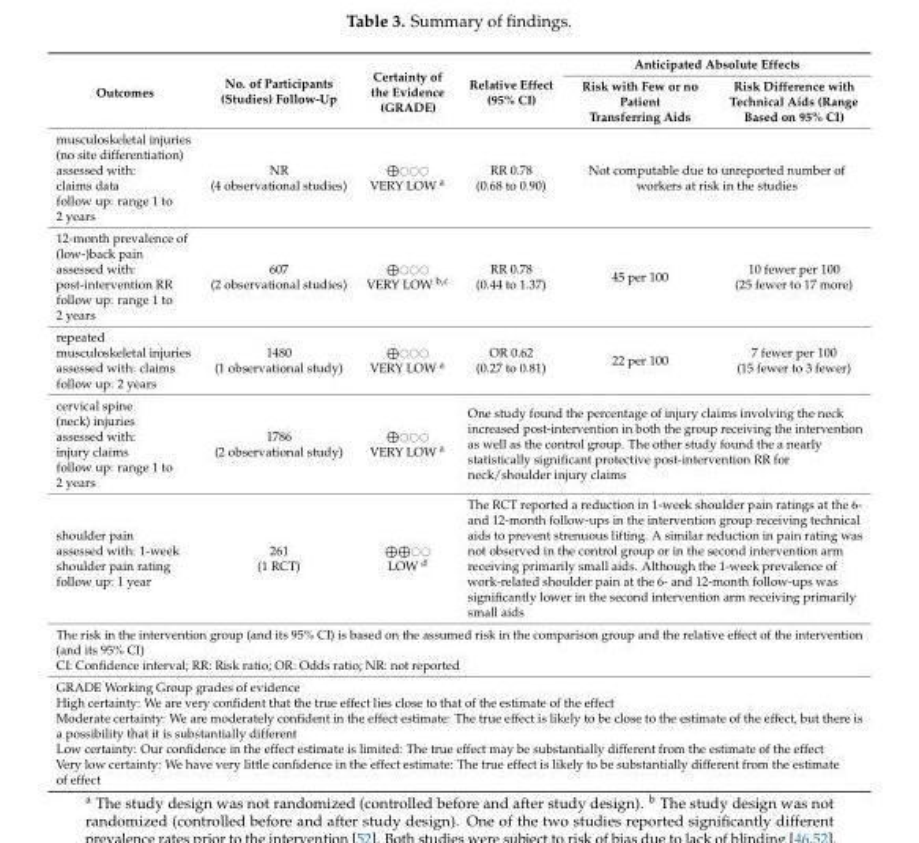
<table><thead><tr><td rowspan="2">Outcomes</td><td rowspan="2">No. of Participants (Studies) Follow-Up</td><td rowspan="2">Certainty of the Evidence (GRADE)</td><td rowspan="2">Relative Effect (95% CI)</td><td colspan="2">Anticipated Absolute Effects</td></tr><tr><td>Risk with Few or no Patient Transferring Aids</td><td>Risk Difference with Technical Aids (Range Based on 95% CI)</td></tr></thead><tbody><tr><td>musculoskeletal injuries (no site differentiation) assessed with: claims data follow up: range 1 to 2 years</td><td>NR (4 observational studies)</td><td>⨁◯◯◯ VERY LOW <sup>a</sup></td><td>RR 0.78 (0.68 to 0.90)</td><td colspan="2">Not computable due to unreported number of workers at risk in the studies</td></tr><tr><td>12-month prevalence of (low-)back pain assessed with: post-intervention RR follow up: range 1 to 2 years</td><td>607 (2 observational studies)</td><td>⨁◯◯◯ VERY LOW <sup>b,c</sup></td><td>RR 0.78 (0.44 to 1.37)</td><td>45 per 100</td><td>10 fewer per 100 (25 fewer to 17 more)</td></tr><tr><td>repeated musculoskeletal injuries assessed with: claims follow up: 2 years</td><td>1480 (1 observational study)</td><td>⨁◯◯◯ VERY LOW <sup>a</sup></td><td>OR 0.62 (0.27 to 0.81)</td><td>22 per 100</td><td>7 fewer per 100 (15 fewer to 3 fewer)</td></tr><tr><td>cervical spine (neck) injuries assessed with: injury claims follow up: range 1 to 2 years</td><td>1786 (2 observational study)</td><td>⨁◯◯◯ VERY LOW <sup>a</sup></td><td colspan="3">One study found the percentage of injury claims involving the neck increased post-intervention in both the group receiving the intervention as well as the control group. The other study found the a nearly statistically significant protective post-intervention RR for neck/shoulder injury claims</td></tr><tr><td>shoulder pain assessed with: 1-week shoulder pain rating follow up: 1 year</td><td>261 (1 RCT)</td><td>⨁⨁◯◯ LOW <sup>d</sup></td><td colspan="3">The RCT reported a reduction in 1-week shoulder pain ratings at the 6- and 12-month follow-ups in the intervention group receiving technical aids to prevent strenuous lifting. A similar reduction in pain rating was not observed in the control group or in the second intervention arm receiving primarily small aids. Although the 1-week prevalence of work-related shoulder pain at the 6- and 12-month follow-ups was significantly lower in the second intervention arm receiving primarily small aids</td></tr><tr><td colspan="6">The risk in the intervention group (and its 95% CI) is based on the assumed risk in the comparison group and the relative effect of the intervention (and its 95% CI) CI: Confidence interval; RR: Risk ratio; OR: Odds ratio; NR: not reported</td></tr><tr><td colspan="6">GRADE Working Group grades of evidence High certainty: We are very confident that the true effect lies close to that of the estimate of the effect Moderate certainty: We are moderately confident in the effect estimate: The true effect is likely to be close to the estimate of the effect, but there is a possibility that it is substantially different Low certainty: Our confidence in the effect estimate is limited: The true effect may be substantially different from the estimate of the effect Very low certainty: We have very little confidence in the effect estimate: The true effect is likely to be substantially different from the estimate of effect</td></tr></tbody></table>